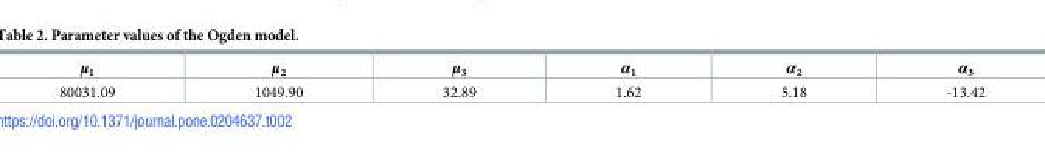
<table><thead><tr><td>μ<sub>1</sub></td><td>μ<sub>2</sub></td><td>μ<sub>3</sub></td><td>α<sub>1</sub></td><td>α<sub>2</sub></td><td>α<sub>3</sub></td></tr></thead><tbody><tr><td>80031.09</td><td>1049.90</td><td>32.89</td><td>1.62</td><td>5.18</td><td>-13.42</td></tr></tbody></table>